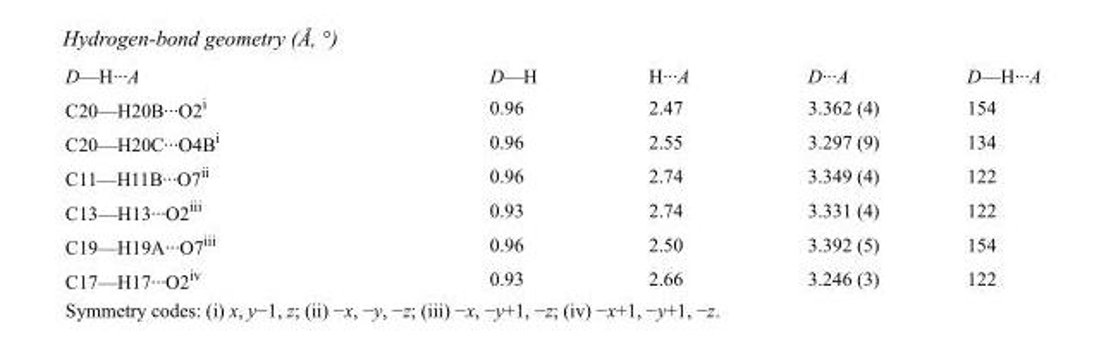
<table><tbody><tr><td>D—H···A</td><td>D—H</td><td>H···A</td><td>D···A</td><td>D—H···A</td></tr><tr><td>C20—H20B···O2<sup>i</sup></td><td>0.96</td><td>2.47</td><td>3.362 (4)</td><td>154</td></tr><tr><td>C20—H20C···O4B<sup>i</sup></td><td>0.96</td><td>2.55</td><td>3.297 (9)</td><td>134</td></tr><tr><td>C11—H11B···O7<sup>ii</sup></td><td>0.96</td><td>2.74</td><td>3.349 (4)</td><td>122</td></tr><tr><td>C13—H13···O2<sup>iii</sup></td><td>0.93</td><td>2.74</td><td>3.331 (4)</td><td>122</td></tr><tr><td>C19—H19A···O7<sup>iii</sup></td><td>0.96</td><td>2.50</td><td>3.392 (5)</td><td>154</td></tr><tr><td>C17—H17···O2<sup>iv</sup></td><td>0.93</td><td>2.66</td><td>3.246 (3)</td><td>122</td></tr></tbody></table>